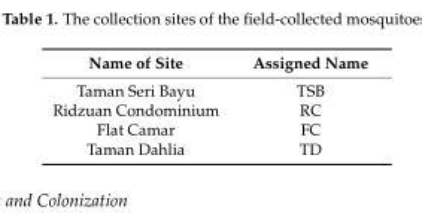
<table><thead><tr><td>Name of Site</td><td>Assigned Name</td></tr></thead><tbody><tr><td>Taman Seri Bayu</td><td>TSB</td></tr><tr><td>Ridzuan Condominium</td><td>RC</td></tr><tr><td>Flat Camar</td><td>FC</td></tr><tr><td>Taman Dahlia</td><td>TD</td></tr></tbody></table>